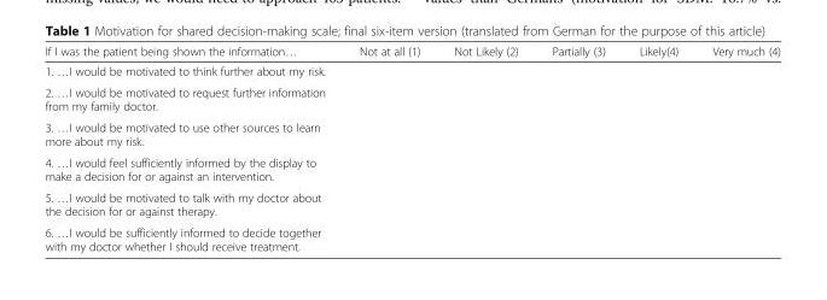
<table><thead><tr><td>If I was the patient being shown the information…</td><td>Not at all (1)</td><td>Not Likely (2)</td><td>Partially (3)</td><td>Likely(4)</td><td>Very much (4)</td></tr></thead><tbody><tr><td colspan="6">1. …I would be motivated to think further about my risk.</td></tr><tr><td colspan="6">2. …I would be motivated to request further information from my family doctor.</td></tr><tr><td colspan="6">3. …I would be motivated to use other sources to learn more about my risk.</td></tr><tr><td colspan="6">4. …I would feel sufficiently informed by the display to make a decision for or against an intervention.</td></tr><tr><td colspan="6">5. …I would be motivated to talk with my doctor about the decision for or against therapy.</td></tr><tr><td>6. …I would be sufficiently informed to decide together with my doctor whether I should receive treatment.</td><td></td><td></td><td></td><td></td><td></td></tr></tbody></table>